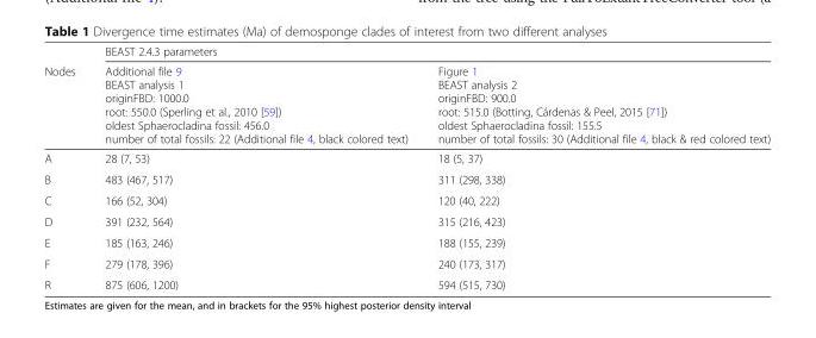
<table><thead><tr><td rowspan="2">Nodes</td><td colspan="2">BEAST 2.4.3 parameters</td></tr><tr><td>Additional file 9 BEAST analysis 1 originFBD: 1000.0 root: 550.0 (Sperling et al., 2010 [59]) oldest Sphaerocladina fossil: 456.0 number of total fossils: 22 (Additional file 4, black colored text)</td><td>Figure 1 BEAST analysis 2 originFBD: 900.0 root: 515.0 (Botting, Cárdenas &amp; Peel, 2015 [71]) oldest Sphaerocladina fossil: 155.5 number of total fossils: 30 (Additional file 4, black &amp; red colored text)</td></tr></thead><tbody><tr><td>A</td><td>28 (7, 53)</td><td>18 (5, 37)</td></tr><tr><td>B</td><td>483 (467, 517)</td><td>311 (298, 338)</td></tr><tr><td>C</td><td>166 (52, 304)</td><td>120 (40, 222)</td></tr><tr><td>D</td><td>391 (232, 564)</td><td>315 (216, 423)</td></tr><tr><td>E</td><td>185 (163, 246)</td><td>188 (155, 239)</td></tr><tr><td>F</td><td>279 (178, 396)</td><td>240 (173, 317)</td></tr><tr><td>R</td><td>875 (606, 1200)</td><td>594 (515, 730)</td></tr></tbody></table>